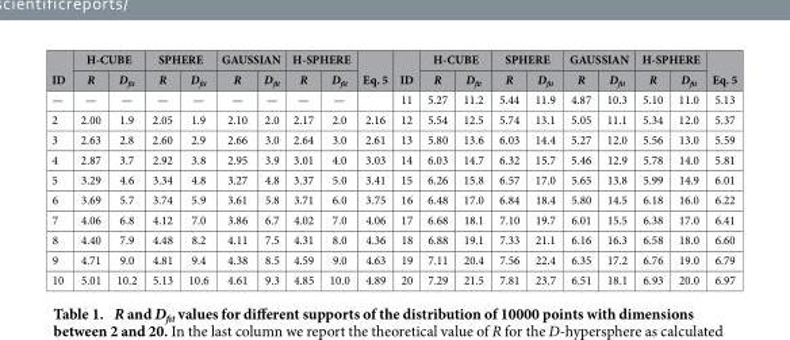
<table><thead><tr><td rowspan="2">ID</td><td colspan="2">H-CUBE</td><td colspan="2">SPHERE</td><td colspan="2">GAUSSIAN</td><td colspan="2">H-SPHERE</td><td rowspan="2">Eq. 5</td><td rowspan="2">ID</td><td colspan="2">H-CUBE</td><td colspan="2">SPHERE</td><td colspan="2">GAUSSIAN</td><td colspan="2">H-SPHERE</td><td rowspan="2">Eq. 5</td></tr><tr><td>R</td><td>D<sub>fit</sub></td><td>R</td><td>D<sub>fit</sub></td><td>R</td><td>D<sub>fit</sub></td><td>R</td><td>D<sub>fit</sub></td><td>R</td><td>D<sub>fit</sub></td><td>R</td><td>D<sub>fit</sub></td><td>R</td><td>D<sub>fit</sub></td><td>R</td><td>D<sub>fit</sub></td></tr></thead><tbody><tr><td>—</td><td>—</td><td>—</td><td>—</td><td>—</td><td>—</td><td>—</td><td>—</td><td>—</td><td></td><td>11</td><td>5.27</td><td>11.2</td><td>5.44</td><td>11.9</td><td>4.87</td><td>10.3</td><td>5.10</td><td>11.0</td><td>5.13</td></tr><tr><td>2</td><td>2.00</td><td>1.9</td><td>2.05</td><td>1.9</td><td>2.10</td><td>2.0</td><td>2.17</td><td>2.0</td><td>2.16</td><td>12</td><td>5.54</td><td>12.5</td><td>5.74</td><td>13.1</td><td>5.05</td><td>11.1</td><td>5.34</td><td>12.0</td><td>5.37</td></tr><tr><td>3</td><td>2.63</td><td>2.8</td><td>2.60</td><td>2.9</td><td>2.66</td><td>3.0</td><td>2.64</td><td>3.0</td><td>2.61</td><td>13</td><td>5.80</td><td>13.6</td><td>6.03</td><td>14.4</td><td>5.27</td><td>12.0</td><td>5.56</td><td>13.0</td><td>5.59</td></tr><tr><td>4</td><td>2.87</td><td>3.7</td><td>2.92</td><td>3.8</td><td>2.95</td><td>3.9</td><td>3.01</td><td>4.0</td><td>3.03</td><td>14</td><td>6.03</td><td>14.7</td><td>6.32</td><td>15.7</td><td>5.46</td><td>12.9</td><td>5.78</td><td>14.0</td><td>5.81</td></tr><tr><td>5</td><td>3.29</td><td>4.6</td><td>3.34</td><td>4.8</td><td>3.27</td><td>4.8</td><td>3.37</td><td>5.0</td><td>3.41</td><td>15</td><td>6.26</td><td>15.8</td><td>6.57</td><td>17.0</td><td>5.65</td><td>13.8</td><td>5.99</td><td>14.9</td><td>6.01</td></tr><tr><td>6</td><td>3.69</td><td>5.7</td><td>3.74</td><td>5.9</td><td>3.61</td><td>5.8</td><td>3.71</td><td>6.0</td><td>3.75</td><td>16</td><td>6.48</td><td>17.0</td><td>6.84</td><td>18.4</td><td>5.80</td><td>14.5</td><td>6.18</td><td>16.0</td><td>6.22</td></tr><tr><td>7</td><td>4.06</td><td>6.8</td><td>4.12</td><td>7.0</td><td>3.86</td><td>6.7</td><td>4.02</td><td>7.0</td><td>4.06</td><td>17</td><td>6.68</td><td>18.1</td><td>7.10</td><td>19.7</td><td>6.01</td><td>15.5</td><td>6.38</td><td>17.0</td><td>6.41</td></tr><tr><td>8</td><td>4.40</td><td>7.9</td><td>4.48</td><td>8.2</td><td>4.11</td><td>7.5</td><td>4.31</td><td>8.0</td><td>4.36</td><td>18</td><td>6.88</td><td>19.1</td><td>7.33</td><td>21.1</td><td>6.16</td><td>16.3</td><td>6.58</td><td>18.0</td><td>6.60</td></tr><tr><td>9</td><td>4.71</td><td>9.0</td><td>4.81</td><td>9.4</td><td>4.38</td><td>8.5</td><td>4.59</td><td>9.0</td><td>4.63</td><td>19</td><td>7.11</td><td>20.4</td><td>7.56</td><td>22.4</td><td>6.35</td><td>17.2</td><td>6.76</td><td>19.0</td><td>6.79</td></tr><tr><td>10</td><td>5.01</td><td>10.2</td><td>5.13</td><td>10.6</td><td>4.61</td><td>9.3</td><td>4.85</td><td>10.0</td><td>4.89</td><td>20</td><td>7.29</td><td>21.5</td><td>7.81</td><td>23.7</td><td>6.51</td><td>18.1</td><td>6.93</td><td>20.0</td><td>6.97</td></tr></tbody></table>